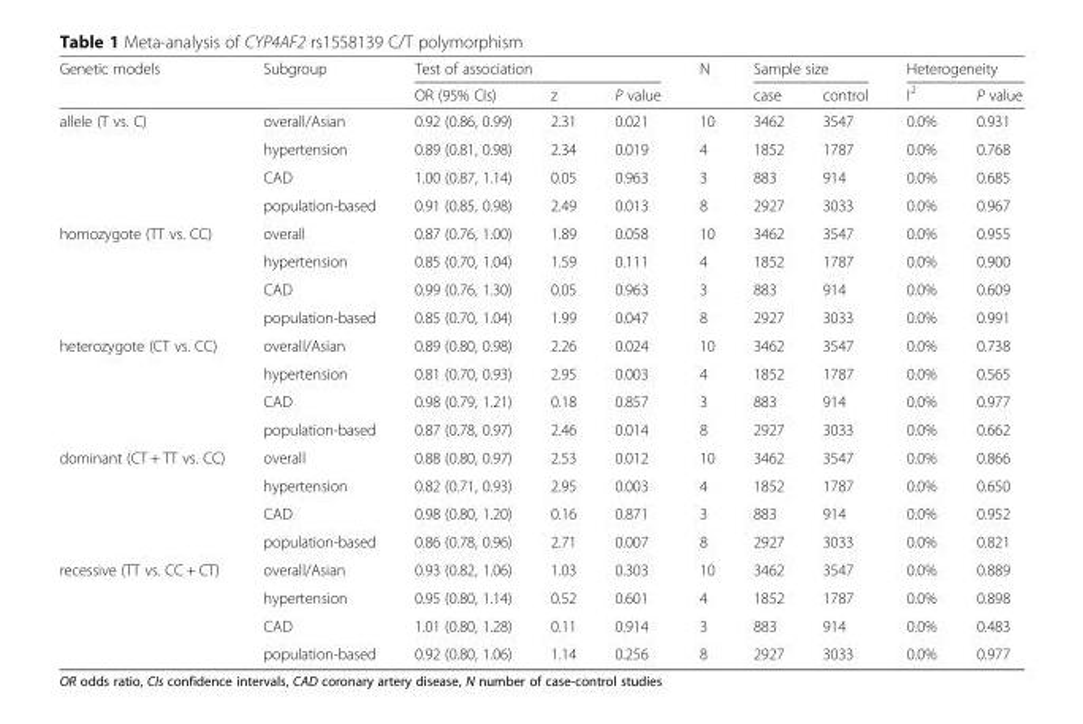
<table><thead><tr><td rowspan="2">Genetic models</td><td rowspan="2">Subgroup</td><td colspan="3">Test of association</td><td rowspan="2">N</td><td colspan="2">Sample size</td><td colspan="2">Heterogeneity</td></tr><tr><td>OR (95% CIs)</td><td>z</td><td>P value</td><td>case</td><td>control</td><td>I<sup>2</sup></td><td>P value</td></tr></thead><tbody><tr><td rowspan="4">allele (T vs. C)</td><td>overall/Asian</td><td>0.92 (0.86, 0.99)</td><td>2.31</td><td>0.021</td><td>10</td><td>3462</td><td>3547</td><td>0.0%</td><td>0.931</td></tr><tr><td>hypertension</td><td>0.89 (0.81, 0.98)</td><td>2.34</td><td>0.019</td><td>4</td><td>1852</td><td>1787</td><td>0.0%</td><td>0.768</td></tr><tr><td>CAD</td><td>1.00 (0.87, 1.14)</td><td>0.05</td><td>0.963</td><td>3</td><td>883</td><td>914</td><td>0.0%</td><td>0.685</td></tr><tr><td>population-based</td><td>0.91 (0.85, 0.98)</td><td>2.49</td><td>0.013</td><td>8</td><td>2927</td><td>3033</td><td>0.0%</td><td>0.967</td></tr><tr><td rowspan="4">homozygote (TT vs. CC)</td><td>overall</td><td>0.87 (0.76, 1.00)</td><td>1.89</td><td>0.058</td><td>10</td><td>3462</td><td>3547</td><td>0.0%</td><td>0.955</td></tr><tr><td>hypertension</td><td>0.85 (0.70, 1.04)</td><td>1.59</td><td>0.111</td><td>4</td><td>1852</td><td>1787</td><td>0.0%</td><td>0.900</td></tr><tr><td>CAD</td><td>0.99 (0.76, 1.30)</td><td>0.05</td><td>0.963</td><td>3</td><td>883</td><td>914</td><td>0.0%</td><td>0.609</td></tr><tr><td>population-based</td><td>0.85 (0.70, 1.04)</td><td>1.99</td><td>0.047</td><td>8</td><td>2927</td><td>3033</td><td>0.0%</td><td>0.991</td></tr><tr><td rowspan="4">heterozygote (CT vs. CC)</td><td>overall/Asian</td><td>0.89 (0.80, 0.98)</td><td>2.26</td><td>0.024</td><td>10</td><td>3462</td><td>3547</td><td>0.0%</td><td>0.738</td></tr><tr><td>hypertension</td><td>0.81 (0.70, 0.93)</td><td>2.95</td><td>0.003</td><td>4</td><td>1852</td><td>1787</td><td>0.0%</td><td>0.565</td></tr><tr><td>CAD</td><td>0.98 (0.79, 1.21)</td><td>0.18</td><td>0.857</td><td>3</td><td>883</td><td>914</td><td>0.0%</td><td>0.977</td></tr><tr><td>population-based</td><td>0.87 (0.78, 0.97)</td><td>2.46</td><td>0.014</td><td>8</td><td>2927</td><td>3033</td><td>0.0%</td><td>0.662</td></tr><tr><td rowspan="4">dominant (CT + TT vs. CC)</td><td>overall</td><td>0.88 (0.80, 0.97)</td><td>2.53</td><td>0.012</td><td>10</td><td>3462</td><td>3547</td><td>0.0%</td><td>0.866</td></tr><tr><td>hypertension</td><td>0.82 (0.71, 0.93)</td><td>2.95</td><td>0.003</td><td>4</td><td>1852</td><td>1787</td><td>0.0%</td><td>0.650</td></tr><tr><td>CAD</td><td>0.98 (0.80, 1.20)</td><td>0.16</td><td>0.871</td><td>3</td><td>883</td><td>914</td><td>0.0%</td><td>0.952</td></tr><tr><td>population-based</td><td>0.86 (0.78, 0.96)</td><td>2.71</td><td>0.007</td><td>8</td><td>2927</td><td>3033</td><td>0.0%</td><td>0.821</td></tr><tr><td rowspan="4">recessive (TT vs. CC + CT)</td><td>overall/Asian</td><td>0.93 (0.82, 1.06)</td><td>1.03</td><td>0.303</td><td>10</td><td>3462</td><td>3547</td><td>0.0%</td><td>0.889</td></tr><tr><td>hypertension</td><td>0.95 (0.80, 1.14)</td><td>0.52</td><td>0.601</td><td>4</td><td>1852</td><td>1787</td><td>0.0%</td><td>0.898</td></tr><tr><td>CAD</td><td>1.01 (0.80, 1.28)</td><td>0.11</td><td>0.914</td><td>3</td><td>883</td><td>914</td><td>0.0%</td><td>0.483</td></tr><tr><td>population-based</td><td>0.92 (0.80, 1.06)</td><td>1.14</td><td>0.256</td><td>8</td><td>2927</td><td>3033</td><td>0.0%</td><td>0.977</td></tr></tbody></table>